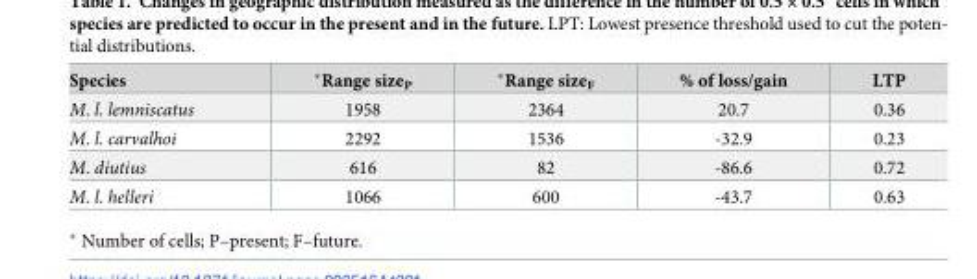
<table><thead><tr><td>Species</td><td>*Range size<sub>P</sub></td><td>*Range size<sub>F</sub></td><td>% of loss/gain</td><td>LTP</td></tr></thead><tbody><tr><td>M. l. lemniscatus</td><td>1958</td><td>2364</td><td>20.7</td><td>0.36</td></tr><tr><td>M. l. carvalhoi</td><td>2292</td><td>1536</td><td>-32.9</td><td>0.23</td></tr><tr><td>M. diutius</td><td>616</td><td>82</td><td>-86.6</td><td>0.72</td></tr><tr><td>M. l. helleri</td><td>1066</td><td>600</td><td>-43.7</td><td>0.63</td></tr></tbody></table>